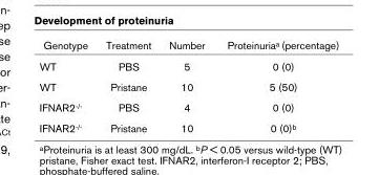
<table><thead><tr><td>Genotype</td><td>Treatment</td><td>Number</td><td>Proteinuria<sup>a</sup> (percentage)</td></tr></thead><tbody><tr><td>WT</td><td>PBS</td><td>5</td><td>0 (0)</td></tr><tr><td>WT</td><td>Pristane</td><td>10</td><td>5 (50)</td></tr><tr><td>IFNAR2<sup>-/-</sup></td><td>PBS</td><td>4</td><td>0 (0)</td></tr><tr><td>IFNAR2<sup>-/-</sup></td><td>Pristane</td><td>10</td><td>0 (0)<sup>b</sup></td></tr></tbody></table>